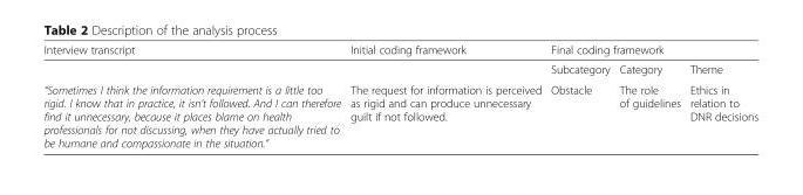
<table><thead><tr><td rowspan="2">Interview transcript</td><td rowspan="2">Initial coding framework</td><td colspan="3">Final coding framework</td></tr><tr><td>Subcategory</td><td>Category</td><td>Theme</td></tr></thead><tbody><tr><td>“Sometimes I think the information requirement is a little too rigid. I know that in practice, it isn’t followed. And I can therefore find it unnecessary, because it places blame on health professionals for not discussing, when they have actually tried to be humane and compassionate in the situation.”</td><td>The request for information is perceived as rigid and can produce unnecessary guilt if not followed.</td><td>Obstacle</td><td>The role of guidelines</td><td>Ethics in relation to DNR decisions</td></tr></tbody></table>